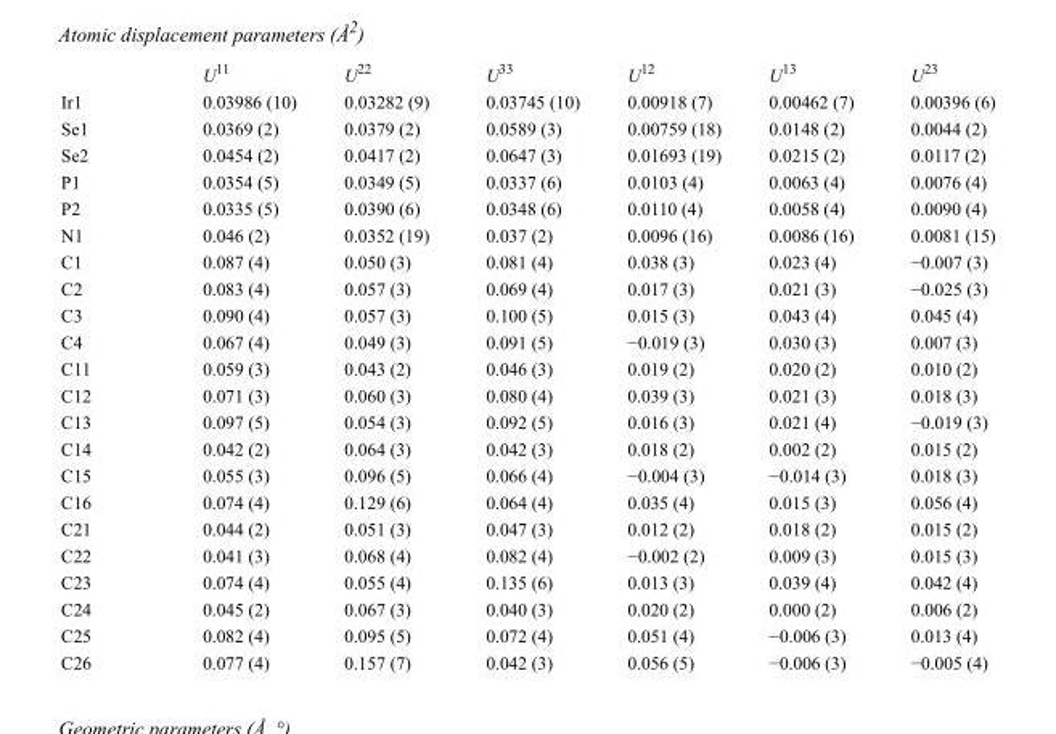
<table><thead><tr><td></td><td>U<sup>11</sup></td><td>U<sup>22</sup></td><td>U<sup>33</sup></td><td>U<sup>12</sup></td><td>U<sup>13</sup></td><td>U<sup>23</sup></td></tr></thead><tbody><tr><td>Ir1</td><td>0.03986 (10)</td><td>0.03282 (9)</td><td>0.03745 (10)</td><td>0.00918 (7)</td><td>0.00462 (7)</td><td>0.00396 (6)</td></tr><tr><td>Se1</td><td>0.0369 (2)</td><td>0.0379 (2)</td><td>0.0589 (3)</td><td>0.00759 (18)</td><td>0.0148 (2)</td><td>0.0044 (2)</td></tr><tr><td>Se2</td><td>0.0454 (2)</td><td>0.0417 (2)</td><td>0.0647 (3)</td><td>0.01693 (19)</td><td>0.0215 (2)</td><td>0.0117 (2)</td></tr><tr><td>P1</td><td>0.0354 (5)</td><td>0.0349 (5)</td><td>0.0337 (6)</td><td>0.0103 (4)</td><td>0.0063 (4)</td><td>0.0076 (4)</td></tr><tr><td>P2</td><td>0.0335 (5)</td><td>0.0390 (6)</td><td>0.0348 (6)</td><td>0.0110 (4)</td><td>0.0058 (4)</td><td>0.0090 (4)</td></tr><tr><td>N1</td><td>0.046 (2)</td><td>0.0352 (19)</td><td>0.037 (2)</td><td>0.0096 (16)</td><td>0.0086 (16)</td><td>0.0081 (15)</td></tr><tr><td>C1</td><td>0.087 (4)</td><td>0.050 (3)</td><td>0.081 (4)</td><td>0.038 (3)</td><td>0.023 (4)</td><td>−0.007 (3)</td></tr><tr><td>C2</td><td>0.083 (4)</td><td>0.057 (3)</td><td>0.069 (4)</td><td>0.017 (3)</td><td>0.021 (3)</td><td>−0.025 (3)</td></tr><tr><td>C3</td><td>0.090 (4)</td><td>0.057 (3)</td><td>0.100 (5)</td><td>0.015 (3)</td><td>0.043 (4)</td><td>0.045 (4)</td></tr><tr><td>C4</td><td>0.067 (4)</td><td>0.049 (3)</td><td>0.091 (5)</td><td>−0.019 (3)</td><td>0.030 (3)</td><td>0.007 (3)</td></tr><tr><td>C11</td><td>0.059 (3)</td><td>0.043 (2)</td><td>0.046 (3)</td><td>0.019 (2)</td><td>0.020 (2)</td><td>0.010 (2)</td></tr><tr><td>C12</td><td>0.071 (3)</td><td>0.060 (3)</td><td>0.080 (4)</td><td>0.039 (3)</td><td>0.021 (3)</td><td>0.018 (3)</td></tr><tr><td>C13</td><td>0.097 (5)</td><td>0.054 (3)</td><td>0.092 (5)</td><td>0.016 (3)</td><td>0.021 (4)</td><td>−0.019 (3)</td></tr><tr><td>C14</td><td>0.042 (2)</td><td>0.064 (3)</td><td>0.042 (3)</td><td>0.018 (2)</td><td>0.002 (2)</td><td>0.015 (2)</td></tr><tr><td>C15</td><td>0.055 (3)</td><td>0.096 (5)</td><td>0.066 (4)</td><td>−0.004 (3)</td><td>−0.014 (3)</td><td>0.018 (3)</td></tr><tr><td>C16</td><td>0.074 (4)</td><td>0.129 (6)</td><td>0.064 (4)</td><td>0.035 (4)</td><td>0.015 (3)</td><td>0.056 (4)</td></tr><tr><td>C21</td><td>0.044 (2)</td><td>0.051 (3)</td><td>0.047 (3)</td><td>0.012 (2)</td><td>0.018 (2)</td><td>0.015 (2)</td></tr><tr><td>C22</td><td>0.041 (3)</td><td>0.068 (4)</td><td>0.082 (4)</td><td>−0.002 (2)</td><td>0.009 (3)</td><td>0.015 (3)</td></tr><tr><td>C23</td><td>0.074 (4)</td><td>0.055 (4)</td><td>0.135 (6)</td><td>0.013 (3)</td><td>0.039 (4)</td><td>0.042 (4)</td></tr><tr><td>C24</td><td>0.045 (2)</td><td>0.067 (3)</td><td>0.040 (3)</td><td>0.020 (2)</td><td>0.000 (2)</td><td>0.006 (2)</td></tr><tr><td>C25</td><td>0.082 (4)</td><td>0.095 (5)</td><td>0.072 (4)</td><td>0.051 (4)</td><td>−0.006 (3)</td><td>0.013 (4)</td></tr><tr><td>C26</td><td>0.077 (4)</td><td>0.157 (7)</td><td>0.042 (3)</td><td>0.056 (5)</td><td>−0.006 (3)</td><td>−0.005 (4)</td></tr></tbody></table>